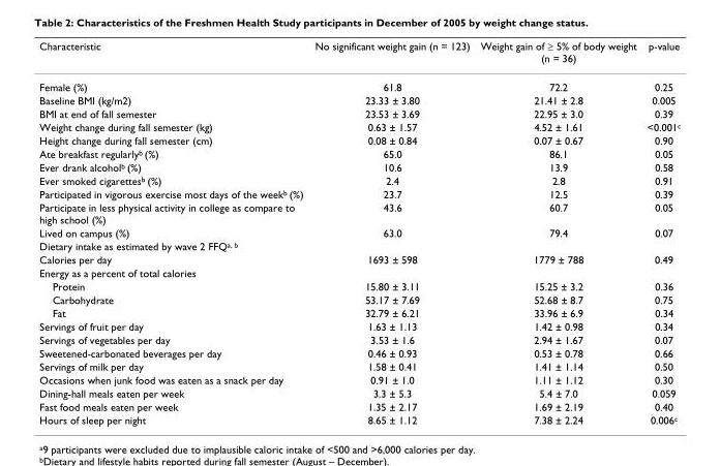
<table><thead><tr><td>Characteristic</td><td>No significant weight gain (n = 123)</td><td>Weight gain of ≥ 5% of body weight (n = 36)</td><td>p-value</td></tr></thead><tbody><tr><td>Female (%)</td><td>61.8</td><td>72.2</td><td>0.25</td></tr><tr><td>Baseline BMI (kg/m2)</td><td>23.33 ± 3.80</td><td>21.41 ± 2.8</td><td>0.005</td></tr><tr><td>BMI at end of fall semester</td><td>23.53 ± 3.69</td><td>22.95 ± 3.0</td><td>0.39</td></tr><tr><td>Weight change during fall semester (kg)</td><td>0.63 ± 1.57</td><td>4.52 ± 1.61</td><td>&lt;0.001<sup>c</sup></td></tr><tr><td>Height change during fall semester (cm)</td><td>0.08 ± 0.84</td><td>0.07 ± 0.67</td><td>0.90</td></tr><tr><td>Ate breakfast regularly<sup>b</sup> (%)</td><td>65.0</td><td>86.1</td><td>0.05</td></tr><tr><td>Ever drank alcohol<sup>b</sup> (%)</td><td>10.6</td><td>13.9</td><td>0.58</td></tr><tr><td>Ever smoked cigarettes<sup>b</sup> (%)</td><td>2.4</td><td>2.8</td><td>0.91</td></tr><tr><td>Participated in vigorous exercise most days of the week<sup>b</sup> (%)</td><td>23.7</td><td>12.5</td><td>0.39</td></tr><tr><td>Participate in less physical activity in college as compare to high school (%)</td><td>43.6</td><td>60.7</td><td>0.05</td></tr><tr><td>Lived on campus (%)</td><td>63.0</td><td>79.4</td><td>0.07</td></tr><tr><td colspan="4">Dietary intake as estimated by wave 2 FFQ<sup>a, b</sup></td></tr><tr><td>Calories per day</td><td>1693 ± 598</td><td>1779 ± 788</td><td>0.49</td></tr><tr><td colspan="4">Energy as a percent of total calories</td></tr><tr><td>Protein</td><td>15.80 ± 3.11</td><td>15.25 ± 3.2</td><td>0.36</td></tr><tr><td>Carbohydrate</td><td>53.17 ± 7.69</td><td>52.68 ± 8.7</td><td>0.75</td></tr><tr><td>Fat</td><td>32.79 ± 6.21</td><td>33.96 ± 6.9</td><td>0.34</td></tr><tr><td>Servings of fruit per day</td><td>1.63 ± 1.13</td><td>1.42 ± 0.98</td><td>0.34</td></tr><tr><td>Servings of vegetables per day</td><td>3.53 ± 1.6</td><td>2.94 ± 1.67</td><td>0.07</td></tr><tr><td>Sweetened-carbonated beverages per day</td><td>0.46 ± 0.93</td><td>0.53 ± 0.78</td><td>0.66</td></tr><tr><td>Servings of milk per day</td><td>1.58 ± 0.41</td><td>1.41 ± 1.14</td><td>0.50</td></tr><tr><td>Occasions when junk food was eaten as a snack per day</td><td>0.91 ± 1.0</td><td>1.11 ± 1.12</td><td>0.30</td></tr><tr><td>Dining-hall meals eaten per week</td><td>3.3 ± 5.3</td><td>5.4 ± 7.0</td><td>0.059</td></tr><tr><td>Fast food meals eaten per week</td><td>1.35 ± 2.17</td><td>1.69 ± 2.19</td><td>0.40</td></tr><tr><td>Hours of sleep per night</td><td>8.65 ± 1.12</td><td>7.38 ± 2.24</td><td>0.006<sup>c</sup></td></tr></tbody></table>